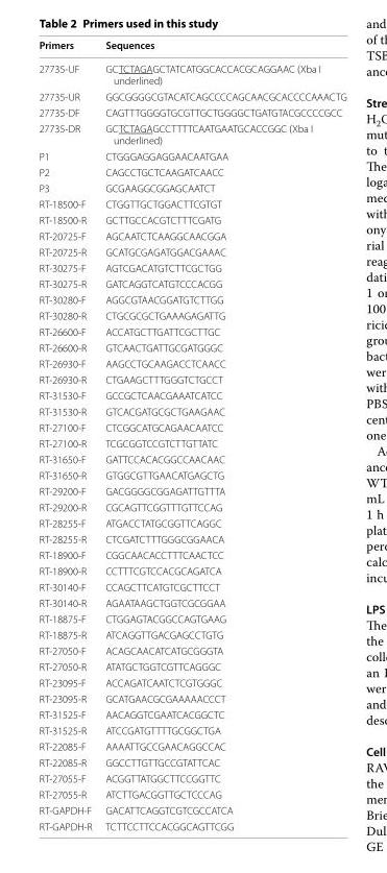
<table><thead><tr><td>Primers</td><td>Sequences</td></tr></thead><tbody><tr><td>27735-UF</td><td>GCTCTAGAGCTATCATGGCACCACGCAGGAAC (Xba I underlined)</td></tr><tr><td>27735-UR</td><td>GGCGGGGCGTACATCAGCCCCAGCAACGCACCCCAAACTG</td></tr><tr><td>27735-DF</td><td>CAGTTTGGGGTGCGTTGCTGGGGCTGATGTACGCCCCGCC</td></tr><tr><td>27735-DR</td><td>GCTCTAGAGCCTTTTCAATGAATGCACCGGC (Xba I underlined)</td></tr><tr><td>P1</td><td>CTGGGAGGAGGAACAATGAA</td></tr><tr><td>P2</td><td>CAGCCTGCTCAAGATCAACC</td></tr><tr><td>P3</td><td>GCGAAGGCGGAGCAATCT</td></tr><tr><td>RT-18500-F</td><td>CTGGTTGCTGGACTTCGTGT</td></tr><tr><td>RT-18500-R</td><td>GCTTGCCACGTCTTTCGATG</td></tr><tr><td>RT-20725-F</td><td>AGCAATCTCAAGGCAACGGA</td></tr><tr><td>RT-20725-R</td><td>GCATGCGAGATGGACGAAAC</td></tr><tr><td>RT-30275-F</td><td>AGTCGACATGTCTTCGCTGG</td></tr><tr><td>RT-30275-R</td><td>GATCAGGTCATGTCCCACGG</td></tr><tr><td>RT-30280-F</td><td>AGGCGTAACGGATGTCTTGG</td></tr><tr><td>RT-30280-R</td><td>CTGCGCGCTGAAAGAGATTG</td></tr><tr><td>RT-26600-F</td><td>ACCATGCTTGATTCGCTTGC</td></tr><tr><td>RT-26600-R</td><td>GTCAACTGATTGCGATGGGC</td></tr><tr><td>RT-26930-F</td><td>AAGCCTGCAAGACCTCAACC</td></tr><tr><td>RT-26930-R</td><td>CTGAAGCTTTGGGTCTGCCT</td></tr><tr><td>RT-31530-F</td><td>GCCGCTCAACGAAATCATCC</td></tr><tr><td>RT-31530-R</td><td>GTCACGATGCGCTGAAGAAC</td></tr><tr><td>RT-27100-F</td><td>CTCGGCATGCAGAACAATCC</td></tr><tr><td>RT-27100-R</td><td>TCGCGGTCCGTCTTGTTATC</td></tr><tr><td>RT-31650-F</td><td>GATTCCACACGGCCAACAAC</td></tr><tr><td>RT-31650-R</td><td>GTGGCGTTGAACATGAGCTG</td></tr><tr><td>RT-29200-F</td><td>GACGGGGCGGAGATTGTTTA</td></tr><tr><td>RT-29200-R</td><td>CGCAGTTCGGTTTGTTCCAG</td></tr><tr><td>RT-28255-F</td><td>ATGACCTATGCGGTTCAGGC</td></tr><tr><td>RT-28255-R</td><td>CTCGATCTTTGGGCGGAACA</td></tr><tr><td>RT-18900-F</td><td>CGGCAACACCTTTCAACTCC</td></tr><tr><td>RT-18900-R</td><td>CCTTTCGTCCACGCAGATCA</td></tr><tr><td>RT-30140-F</td><td>CCAGCTTCATGTCGCTTCCT</td></tr><tr><td>RT-30140-R</td><td>AGAATAAGCTGGTCGCGGAA</td></tr><tr><td>RT-18875-F</td><td>CTGGAGTACGGCCAGTGAAG</td></tr><tr><td>RT-18875-R</td><td>ATCAGGTTGACGAGCCTGTG</td></tr><tr><td>RT-27050-F</td><td>ACAGCAACATCATGCGGGTA</td></tr><tr><td>RT-27050-R</td><td>ATATGCTGGTCGTTCAGGGC</td></tr><tr><td>RT-23095-F</td><td>ACCAGATCAATCTCGTGGGC</td></tr><tr><td>RT-23095-R</td><td>GCATGAACGCGAAAAACCCT</td></tr><tr><td>RT-31525-F</td><td>AACAGGTCGAATCACGGCTC</td></tr><tr><td>RT-31525-R</td><td>ATCCGATGTTTTGCGGCTGA</td></tr><tr><td>RT-22085-F</td><td>AAAATTGCCGAACAGGCCAC</td></tr><tr><td>RT-22085-R</td><td>GGCCTTGTTGCCGTATTCAC</td></tr><tr><td>RT-27055-F</td><td>ACGGTTATGGCTTCCGGTTC</td></tr><tr><td>RT-27055-R</td><td>ATCTTGACGGTTGCTCCCAG</td></tr><tr><td>RT-GAPDH-F</td><td>GACATTCAGGTCGTCGCCATCA</td></tr><tr><td>RT-GAPDH-R</td><td>TCTTCCTTCCACGGCAGTTCGG</td></tr></tbody></table>